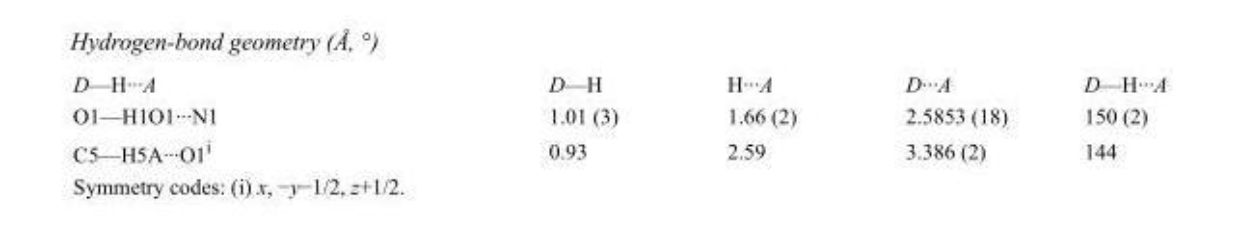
<table><tbody><tr><td>D—H···A</td><td>D—H</td><td>H···A</td><td>D···A</td><td>D—H···A</td></tr><tr><td>O1—H1O1···N1</td><td>1.01 (3)</td><td>1.66 (2)</td><td>2.5853 (18)</td><td>150 (2)</td></tr><tr><td>C5—H5A···O1<sup>i</sup></td><td>0.93</td><td>2.59</td><td>3.386 (2)</td><td>144</td></tr></tbody></table>